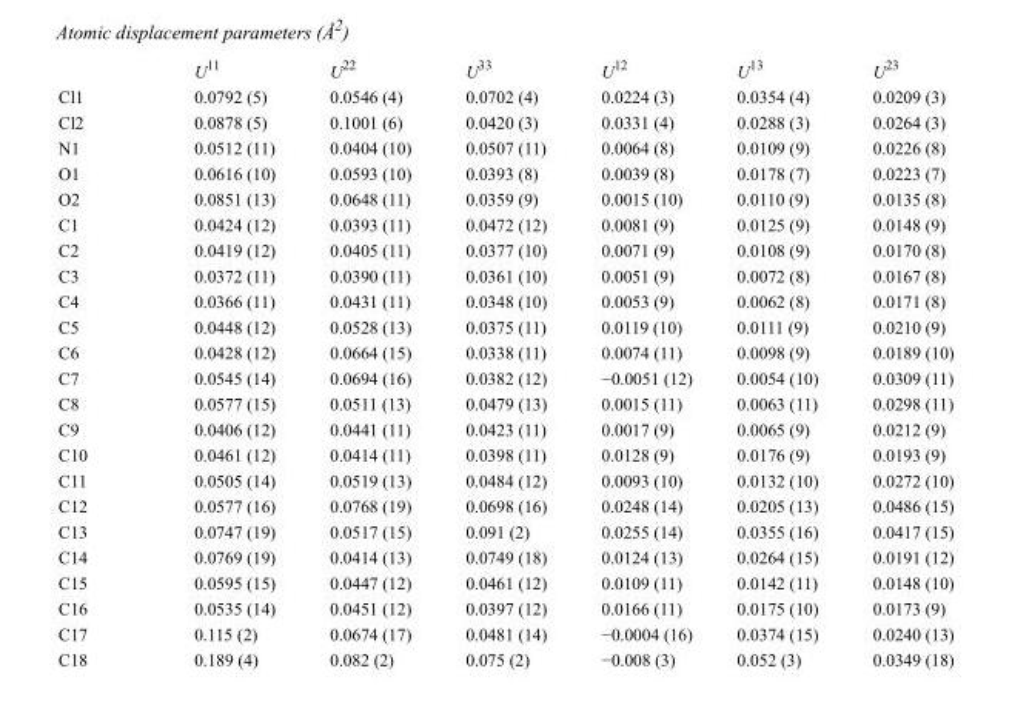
<table><thead><tr><td></td><td>U<sup>11</sup></td><td>U<sup>22</sup></td><td>U<sup>33</sup></td><td>U<sup>12</sup></td><td>U<sup>13</sup></td><td>U<sup>23</sup></td></tr></thead><tbody><tr><td>Cl1</td><td>0.0792 (5)</td><td>0.0546 (4)</td><td>0.0702 (4)</td><td>0.0224 (3)</td><td>0.0354 (4)</td><td>0.0209 (3)</td></tr><tr><td>Cl2</td><td>0.0878 (5)</td><td>0.1001 (6)</td><td>0.0420 (3)</td><td>0.0331 (4)</td><td>0.0288 (3)</td><td>0.0264 (3)</td></tr><tr><td>N1</td><td>0.0512 (11)</td><td>0.0404 (10)</td><td>0.0507 (11)</td><td>0.0064 (8)</td><td>0.0109 (9)</td><td>0.0226 (8)</td></tr><tr><td>O1</td><td>0.0616 (10)</td><td>0.0593 (10)</td><td>0.0393 (8)</td><td>0.0039 (8)</td><td>0.0178 (7)</td><td>0.0223 (7)</td></tr><tr><td>O2</td><td>0.0851 (13)</td><td>0.0648 (11)</td><td>0.0359 (9)</td><td>0.0015 (10)</td><td>0.0110 (9)</td><td>0.0135 (8)</td></tr><tr><td>C1</td><td>0.0424 (12)</td><td>0.0393 (11)</td><td>0.0472 (12)</td><td>0.0081 (9)</td><td>0.0125 (9)</td><td>0.0148 (9)</td></tr><tr><td>C2</td><td>0.0419 (12)</td><td>0.0405 (11)</td><td>0.0377 (10)</td><td>0.0071 (9)</td><td>0.0108 (9)</td><td>0.0170 (8)</td></tr><tr><td>C3</td><td>0.0372 (11)</td><td>0.0390 (11)</td><td>0.0361 (10)</td><td>0.0051 (9)</td><td>0.0072 (8)</td><td>0.0167 (8)</td></tr><tr><td>C4</td><td>0.0366 (11)</td><td>0.0431 (11)</td><td>0.0348 (10)</td><td>0.0053 (9)</td><td>0.0062 (8)</td><td>0.0171 (8)</td></tr><tr><td>C5</td><td>0.0448 (12)</td><td>0.0528 (13)</td><td>0.0375 (11)</td><td>0.0119 (10)</td><td>0.0111 (9)</td><td>0.0210 (9)</td></tr><tr><td>C6</td><td>0.0428 (12)</td><td>0.0664 (15)</td><td>0.0338 (11)</td><td>0.0074 (11)</td><td>0.0098 (9)</td><td>0.0189 (10)</td></tr><tr><td>C7</td><td>0.0545 (14)</td><td>0.0694 (16)</td><td>0.0382 (12)</td><td>−0.0051 (12)</td><td>0.0054 (10)</td><td>0.0309 (11)</td></tr><tr><td>C8</td><td>0.0577 (15)</td><td>0.0511 (13)</td><td>0.0479 (13)</td><td>0.0015 (11)</td><td>0.0063 (11)</td><td>0.0298 (11)</td></tr><tr><td>C9</td><td>0.0406 (12)</td><td>0.0441 (11)</td><td>0.0423 (11)</td><td>0.0017 (9)</td><td>0.0065 (9)</td><td>0.0212 (9)</td></tr><tr><td>C10</td><td>0.0461 (12)</td><td>0.0414 (11)</td><td>0.0398 (11)</td><td>0.0128 (9)</td><td>0.0176 (9)</td><td>0.0193 (9)</td></tr><tr><td>C11</td><td>0.0505 (14)</td><td>0.0519 (13)</td><td>0.0484 (12)</td><td>0.0093 (10)</td><td>0.0132 (10)</td><td>0.0272 (10)</td></tr><tr><td>C12</td><td>0.0577 (16)</td><td>0.0768 (19)</td><td>0.0698 (16)</td><td>0.0248 (14)</td><td>0.0205 (13)</td><td>0.0486 (15)</td></tr><tr><td>C13</td><td>0.0747 (19)</td><td>0.0517 (15)</td><td>0.091 (2)</td><td>0.0255 (14)</td><td>0.0355 (16)</td><td>0.0417 (15)</td></tr><tr><td>C14</td><td>0.0769 (19)</td><td>0.0414 (13)</td><td>0.0749 (18)</td><td>0.0124 (13)</td><td>0.0264 (15)</td><td>0.0191 (12)</td></tr><tr><td>C15</td><td>0.0595 (15)</td><td>0.0447 (12)</td><td>0.0461 (12)</td><td>0.0109 (11)</td><td>0.0142 (11)</td><td>0.0148 (10)</td></tr><tr><td>C16</td><td>0.0535 (14)</td><td>0.0451 (12)</td><td>0.0397 (12)</td><td>0.0166 (11)</td><td>0.0175 (10)</td><td>0.0173 (9)</td></tr><tr><td>C17</td><td>0.115 (2)</td><td>0.0674 (17)</td><td>0.0481 (14)</td><td>−0.0004 (16)</td><td>0.0374 (15)</td><td>0.0240 (13)</td></tr><tr><td>C18</td><td>0.189 (4)</td><td>0.082 (2)</td><td>0.075 (2)</td><td>−0.008 (3)</td><td>0.052 (3)</td><td>0.0349 (18)</td></tr></tbody></table>